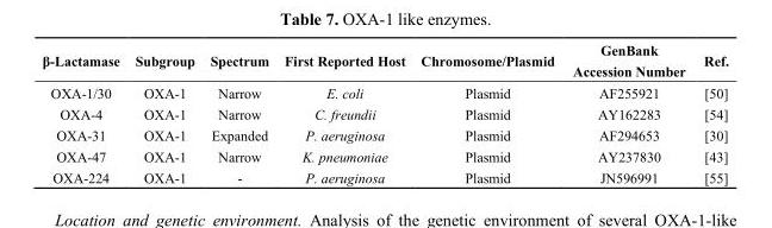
<table><thead><tr><td>β-Lactamase</td><td>Subgroup</td><td>Spectrum</td><td>First Reported Host</td><td>Chromosome/Plasmid</td><td>GenBank Accession Number</td><td>Ref.</td></tr></thead><tbody><tr><td>OXA-1/30</td><td>OXA-1</td><td>Narrow</td><td>E. coli</td><td>Plasmid</td><td>AF255921</td><td>[50]</td></tr><tr><td>OXA-4</td><td>OXA-1</td><td>Narrow</td><td>C. freundii</td><td>Plasmid</td><td>AY162283</td><td>[54]</td></tr><tr><td>OXA-31</td><td>OXA-1</td><td>Expanded</td><td>P. aeruginosa</td><td>Plasmid</td><td>AF294653</td><td>[30]</td></tr><tr><td>OXA-47</td><td>OXA-1</td><td>Narrow</td><td>K. pneumoniae</td><td>Plasmid</td><td>AY237830</td><td>[43]</td></tr><tr><td>OXA-224</td><td>OXA-1</td><td>-</td><td>P. aeruginosa</td><td>Plasmid</td><td>JN596991</td><td>[55]</td></tr></tbody></table>